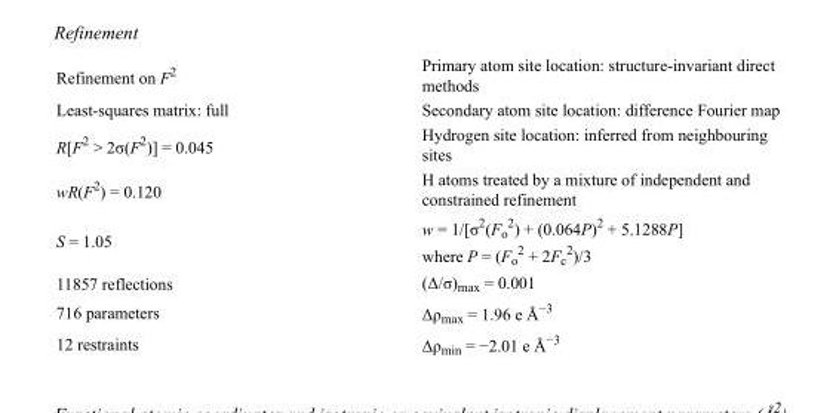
<table><tbody><tr><td>Refinement on F<sup>2</sup></td><td>Primary atom site location: structure-invariant direct methods</td></tr><tr><td>Least-squares matrix: full</td><td>Secondary atom site location: difference Fourier map</td></tr><tr><td>R[F<sup>2</sup> &gt; 2σ(F<sup>2</sup>)] = 0.045</td><td>Hydrogen site location: inferred from neighbouring sites</td></tr><tr><td>wR(F<sup>2</sup>) = 0.120</td><td>H atoms treated by a mixture of independent and constrained refinement</td></tr><tr><td>S = 1.05</td><td>w = 1/[σ<sup>2</sup>(F<sub>o</sub> <sup>2</sup>) + (0.064P)<sup>2</sup> + 5.1288P] where P = (F<sub>o</sub> <sup>2</sup> + 2F<sub>c</sub> <sup>2</sup>)/3</td></tr><tr><td>11857 reflections</td><td>(Δ/σ)<sub>max</sub> = 0.001</td></tr><tr><td>716 parameters</td><td>Δρ<sub>max</sub> = 1.96 e Å<sup>−3</sup></td></tr><tr><td>12 restraints</td><td>Δρ<sub>min</sub> = −2.01 e Å<sup>−3</sup></td></tr></tbody></table>